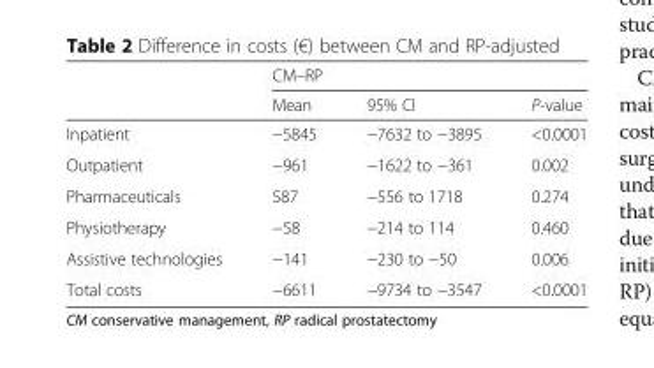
<table><thead><tr><td rowspan="2"></td><td colspan="3">CM–RP</td></tr><tr><td>Mean</td><td>95% CI</td><td>P-value</td></tr></thead><tbody><tr><td>Inpatient</td><td>−5845</td><td>−7632 to −3895</td><td>&lt;0.0001</td></tr><tr><td>Outpatient</td><td>−961</td><td>−1622 to −361</td><td>0.002</td></tr><tr><td>Pharmaceuticals</td><td>587</td><td>−556 to 1718</td><td>0.274</td></tr><tr><td>Physiotherapy</td><td>−58</td><td>−214 to 114</td><td>0.460</td></tr><tr><td>Assistive technologies</td><td>−141</td><td>−230 to −50</td><td>0.006</td></tr><tr><td>Total costs</td><td>−6611</td><td>−9734 to −3547</td><td>&lt;0.0001</td></tr></tbody></table>